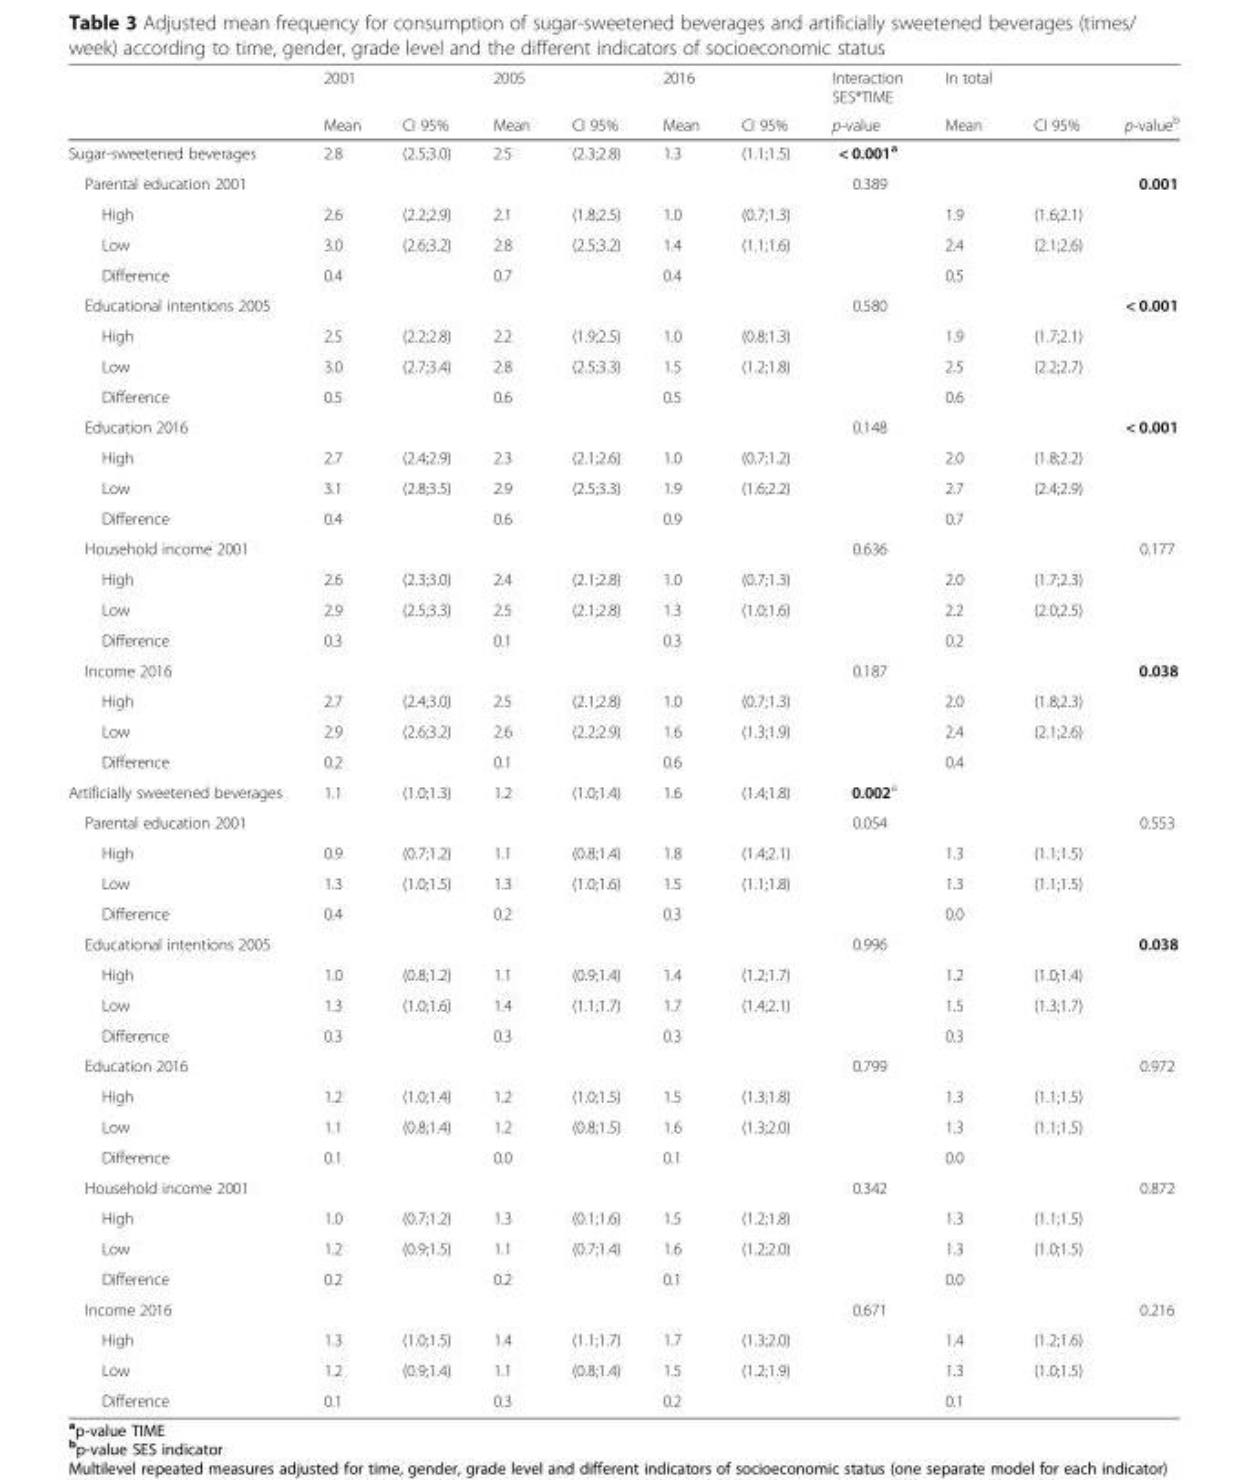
<table><thead><tr><td rowspan="2"></td><td rowspan="2">2001 Mean</td><td rowspan="2">CI 95%</td><td rowspan="2">2005 Mean</td><td rowspan="2">CI 95%</td><td rowspan="2">2016 Mean</td><td rowspan="2">CI 95%</td><td rowspan="2">Interaction SES*TIME p-value</td><td rowspan="2">In total Mean</td><td rowspan="2">CI 95%</td><td rowspan="2">p-value<sup>b</sup></td></tr><tr></tr></thead><tbody><tr><td>Sugar-sweetened beverages</td><td>2.8</td><td>(2.5;3.0)</td><td>2.5</td><td>(2.3;2.8)</td><td>1.3</td><td>(1.1;1.5)</td><td>&lt; 0.001<sup>a</sup></td><td></td><td></td><td></td></tr><tr><td>Parental education 2001</td><td></td><td></td><td></td><td></td><td></td><td></td><td>0.389</td><td></td><td></td><td>0.001</td></tr><tr><td>High</td><td>2.6</td><td>(2.2;2.9)</td><td>2.1</td><td>(1.8;2.5)</td><td>1.0</td><td>(0.7;1.3)</td><td></td><td>1.9</td><td>(1.6;2.1)</td><td rowspan="3"></td></tr><tr><td>Low</td><td>3.0</td><td>(2.6;3.2)</td><td>2.8</td><td>(2.5;3.2)</td><td>1.4</td><td>(1.1;1.6)</td><td></td><td>2.4</td><td>(2.1;2.6)</td></tr><tr><td>Difference</td><td>0.4</td><td></td><td>0.7</td><td></td><td>0.4</td><td></td><td></td><td>0.5</td><td></td></tr><tr><td>Educational intentions 2005</td><td></td><td></td><td></td><td></td><td></td><td></td><td>0.580</td><td></td><td></td><td>&lt; 0.001</td></tr><tr><td>High</td><td>2.5</td><td>(2.2;2.8)</td><td>2.2</td><td>(1.9;2.5)</td><td>1.0</td><td>(0.8;1.3)</td><td></td><td>1.9</td><td>(1.7;2.1)</td><td rowspan="3"></td></tr><tr><td>Low</td><td>3.0</td><td>(2.7;3.4)</td><td>2.8</td><td>(2.5;3.3)</td><td>1.5</td><td>(1.2;1.8)</td><td></td><td>2.5</td><td>(2.2;2.7)</td></tr><tr><td>Difference</td><td>0.5</td><td></td><td>0.6</td><td></td><td>0.5</td><td></td><td></td><td>0.6</td><td></td></tr><tr><td>Education 2016</td><td></td><td></td><td></td><td></td><td></td><td></td><td>0.148</td><td></td><td></td><td>&lt; 0.001</td></tr><tr><td>High</td><td>2.7</td><td>(2.4;2.9)</td><td>2.3</td><td>(2.1;2.6)</td><td>1.0</td><td>(0.7;1.2)</td><td></td><td>2.0</td><td>(1.8;2.2)</td><td rowspan="3"></td></tr><tr><td>Low</td><td>3.1</td><td>(2.8;3.5)</td><td>2.9</td><td>(2.5;3.3)</td><td>1.9</td><td>(1.6;2.2)</td><td></td><td>2.7</td><td>(2.4;2.9)</td></tr><tr><td>Difference</td><td>0.4</td><td></td><td>0.6</td><td></td><td>0.9</td><td></td><td></td><td>0.7</td><td></td></tr><tr><td>Household income 2001</td><td></td><td></td><td></td><td></td><td></td><td></td><td>0.636</td><td></td><td></td><td>0.177</td></tr><tr><td>High</td><td>2.6</td><td>(2.3;3.0)</td><td>2.4</td><td>(2.1;2.8)</td><td>1.0</td><td>(0.7;1.3)</td><td></td><td>2.0</td><td>(1.7;2.3)</td><td rowspan="3"></td></tr><tr><td>Low</td><td>2.9</td><td>(2.5;3.3)</td><td>2.5</td><td>(2.1;2.8)</td><td>1.3</td><td>(1.0;1.6)</td><td></td><td>2.2</td><td>(2.0;2.5)</td></tr><tr><td>Difference</td><td>0.3</td><td></td><td>0.1</td><td></td><td>0.3</td><td></td><td></td><td>0.2</td><td></td></tr><tr><td>Income 2016</td><td></td><td></td><td></td><td></td><td></td><td></td><td>0.187</td><td></td><td></td><td>0.038</td></tr><tr><td>High</td><td>2.7</td><td>(2.4;3.0)</td><td>2.5</td><td>(2.1;2.8)</td><td>1.0</td><td>(0.7;1.3)</td><td></td><td>2.0</td><td>(1.8;2.3)</td><td rowspan="3"></td></tr><tr><td>Low</td><td>2.9</td><td>(2.6;3.2)</td><td>2.6</td><td>(2.2;2.9)</td><td>1.6</td><td>(1.3;1.9)</td><td></td><td>2.4</td><td>(2.1;2.6)</td></tr><tr><td>Difference</td><td>0.2</td><td></td><td>0.1</td><td></td><td>0.6</td><td></td><td></td><td>0.4</td><td></td></tr><tr><td>Artificially sweetened beverages</td><td>1.1</td><td>(1.0;1.3)</td><td>1.2</td><td>(1.0;1.4)</td><td>1.6</td><td>(1.4;1.8)</td><td>0.002<sup>a</sup></td><td></td><td></td><td></td></tr><tr><td>Parental education 2001</td><td></td><td></td><td></td><td></td><td></td><td></td><td>0.054</td><td></td><td></td><td>0.553</td></tr><tr><td>High</td><td>0.9</td><td>(0.7;1.2)</td><td>1.1</td><td>(0.8;1.4)</td><td>1.8</td><td>(1.4;2.1)</td><td></td><td>1.3</td><td>(1.1;1.5)</td><td rowspan="3"></td></tr><tr><td>Low</td><td>1.3</td><td>(1.0;1.5)</td><td>1.3</td><td>(1.0;1.6)</td><td>1.5</td><td>(1.1;1.8)</td><td></td><td>1.3</td><td>(1.1;1.5)</td></tr><tr><td>Difference</td><td>0.4</td><td></td><td>0.2</td><td></td><td>0.3</td><td></td><td></td><td>0.0</td><td></td></tr><tr><td>Educational intentions 2005</td><td></td><td></td><td></td><td></td><td></td><td></td><td>0.996</td><td></td><td></td><td>0.038</td></tr><tr><td>High</td><td>1.0</td><td>(0.8;1.2)</td><td>1.1</td><td>(0.9;1.4)</td><td>1.4</td><td>(1.2;1.7)</td><td></td><td>1.2</td><td>(1.0;1.4)</td><td rowspan="3"></td></tr><tr><td>Low</td><td>1.3</td><td>(1.0;1.6)</td><td>1.4</td><td>(1.1;1.7)</td><td>1.7</td><td>(1.4;2.1)</td><td></td><td>1.5</td><td>(1.3;1.7)</td></tr><tr><td>Difference</td><td>0.3</td><td></td><td>0.3</td><td></td><td>0.3</td><td></td><td></td><td>0.3</td><td></td></tr><tr><td>Education 2016</td><td></td><td></td><td></td><td></td><td></td><td></td><td>0.799</td><td></td><td></td><td>0.972</td></tr><tr><td>High</td><td>1.2</td><td>(1.0;1.4)</td><td>1.2</td><td>(1.0;1.5)</td><td>1.5</td><td>(1.3;1.8)</td><td></td><td>1.3</td><td>(1.1;1.5)</td><td rowspan="3"></td></tr><tr><td>Low</td><td>1.1</td><td>(0.8;1.4)</td><td>1.2</td><td>(0.8;1.5)</td><td>1.6</td><td>(1.3;2.0)</td><td></td><td>1.3</td><td>(1.1;1.5)</td></tr><tr><td>Difference</td><td>0.1</td><td></td><td>0.0</td><td></td><td>0.1</td><td></td><td></td><td>0.0</td><td></td></tr><tr><td>Household income 2001</td><td></td><td></td><td></td><td></td><td></td><td></td><td>0.342</td><td></td><td></td><td>0.872</td></tr><tr><td>High</td><td>1.0</td><td>(0.7;1.2)</td><td>1.3</td><td>(0.1;1.6)</td><td>1.5</td><td>(1.2;1.8)</td><td></td><td>1.3</td><td>(1.1;1.5)</td><td rowspan="3"></td></tr><tr><td>Low</td><td>1.2</td><td>(0.9;1.5)</td><td>1.1</td><td>(0.7;1.4)</td><td>1.6</td><td>(1.2;2.0)</td><td></td><td>1.3</td><td>(1.0;1.5)</td></tr><tr><td>Difference</td><td>0.2</td><td></td><td>0.2</td><td></td><td>0.1</td><td></td><td></td><td>0.0</td><td></td></tr><tr><td>Income 2016</td><td></td><td></td><td></td><td></td><td></td><td></td><td>0.671</td><td></td><td></td><td>0.216</td></tr><tr><td>High</td><td>1.3</td><td>(1.0;1.5)</td><td>1.4</td><td>(1.1;1.7)</td><td>1.7</td><td>(1.3;2.0)</td><td></td><td>1.4</td><td>(1.2;1.6)</td><td rowspan="3"></td></tr><tr><td>Low</td><td>1.2</td><td>(0.9;1.4)</td><td>1.1</td><td>(0.8;1.4)</td><td>1.5</td><td>(1.2;1.9)</td><td></td><td>1.3</td><td>(1.0;1.5)</td></tr><tr><td>Difference</td><td>0.1</td><td></td><td>0.3</td><td></td><td>0.2</td><td></td><td></td><td>0.1</td><td></td></tr></tbody></table>